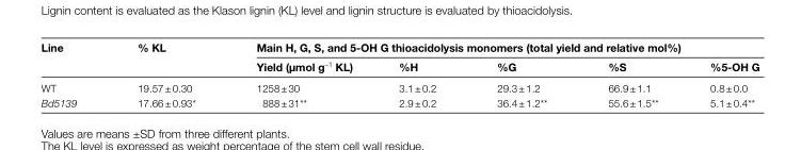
<table><thead><tr><td rowspan="2">Line</td><td rowspan="2">% KL</td><td colspan="5">Main H, G, S, and 5-OH G thioacidolysis monomers (total yield and relative mol%)</td></tr><tr><td>Yield (μmol g<sup>–1</sup> KL)</td><td>%H</td><td>%G</td><td>%S</td><td>%5-OH G</td></tr></thead><tbody><tr><td>WT</td><td>19.57 ± 0.30</td><td>1258 ± 30</td><td>3.1 ± 0.2</td><td>29.3 ± 1.2</td><td>66.9 ± 1.1</td><td>0.8 ± 0.0</td></tr><tr><td>Bd5139</td><td>17.66 ± 0.93*</td><td>888 ± 31**</td><td>2.9 ± 0.2</td><td>36.4 ± 1.2**</td><td>55.6 ± 1.5**</td><td>5.1 ± 0.4**</td></tr></tbody></table>